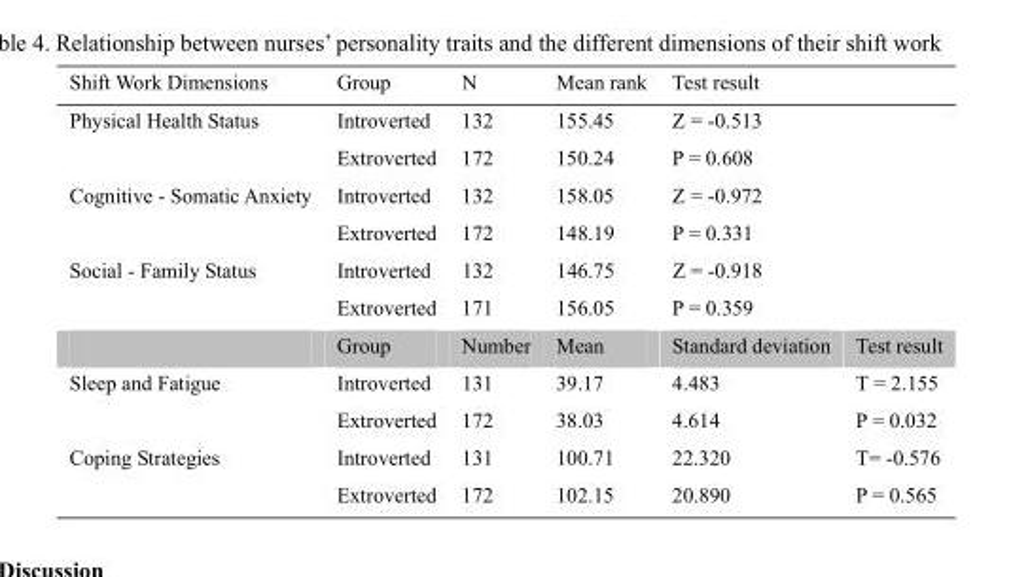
<table><thead><tr><td>Shift Work Dimensions</td><td>Group</td><td>N</td><td>Mean rank</td><td colspan="2">Test result</td></tr></thead><tbody><tr><td rowspan="2">Physical Health Status</td><td>Introverted</td><td>132</td><td>155.45</td><td colspan="2">Z = -0.513</td></tr><tr><td>Extroverted</td><td>172</td><td>150.24</td><td colspan="2">P = 0.608</td></tr><tr><td rowspan="2">Cognitive - Somatic Anxiety</td><td>Introverted</td><td>132</td><td>158.05</td><td colspan="2">Z = -0.972</td></tr><tr><td>Extroverted</td><td>172</td><td>148.19</td><td colspan="2">P = 0.331</td></tr><tr><td rowspan="3">Social - Family Status</td><td>Introverted</td><td>132</td><td>146.75</td><td colspan="2">Z = -0.918</td></tr><tr><td>Extroverted</td><td>171</td><td>156.05</td><td colspan="2">P = 0.359</td></tr><tr><td>Group</td><td>Number</td><td>Mean</td><td>Standard deviation</td><td>Test result</td></tr><tr><td rowspan="2">Sleep and Fatigue</td><td>Introverted</td><td>131</td><td>39.17</td><td>4.483</td><td>T = 2.155</td></tr><tr><td>Extroverted</td><td>172</td><td>38.03</td><td>4.614</td><td>P = 0.032</td></tr><tr><td rowspan="2">Coping Strategies</td><td>Introverted</td><td>131</td><td>100.71</td><td>22.320</td><td>T= -0.576</td></tr><tr><td>Extroverted</td><td>172</td><td>102.15</td><td>20.890</td><td>P = 0.565</td></tr></tbody></table>